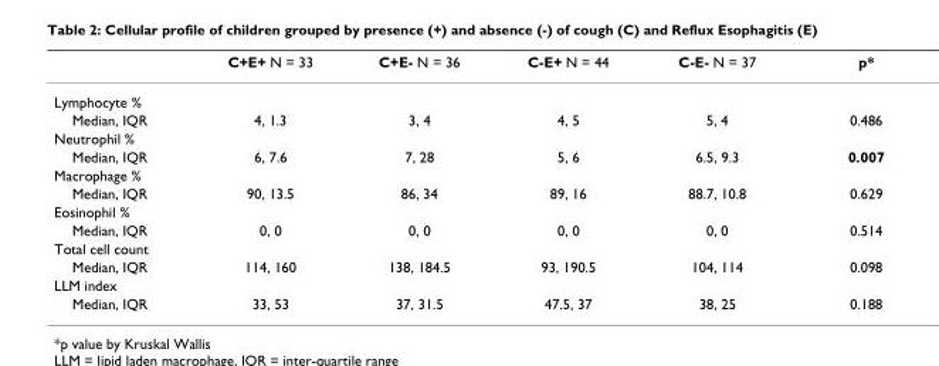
<table><thead><tr><td></td><td>C+E+ N = 33</td><td>C+E- N = 36</td><td>C-E+ N = 44</td><td>C-E- N = 37</td><td>p*</td></tr></thead><tbody><tr><td colspan="6">Lymphocyte %</td></tr><tr><td>Median, IQR</td><td>4, 1.3</td><td>3, 4</td><td>4, 5</td><td>5, 4</td><td>0.486</td></tr><tr><td colspan="6">Neutrophil %</td></tr><tr><td>Median, IQR</td><td>6, 7.6</td><td>7, 28</td><td>5, 6</td><td>6.5, 9.3</td><td>0.007</td></tr><tr><td colspan="6">Macrophage %</td></tr><tr><td>Median, IQR</td><td>90, 13.5</td><td>86, 34</td><td>89, 16</td><td>88.7, 10.8</td><td>0.629</td></tr><tr><td colspan="6">Eosinophil %</td></tr><tr><td>Median, IQR</td><td>0, 0</td><td>0, 0</td><td>0, 0</td><td>0, 0</td><td>0.514</td></tr><tr><td colspan="6">Total cell count</td></tr><tr><td>Median, IQR</td><td>114, 160</td><td>138, 184.5</td><td>93, 190.5</td><td>104, 114</td><td>0.098</td></tr><tr><td colspan="6">LLM index</td></tr><tr><td>Median, IQR</td><td>33, 53</td><td>37, 31.5</td><td>47.5, 37</td><td>38, 25</td><td>0.188</td></tr></tbody></table>